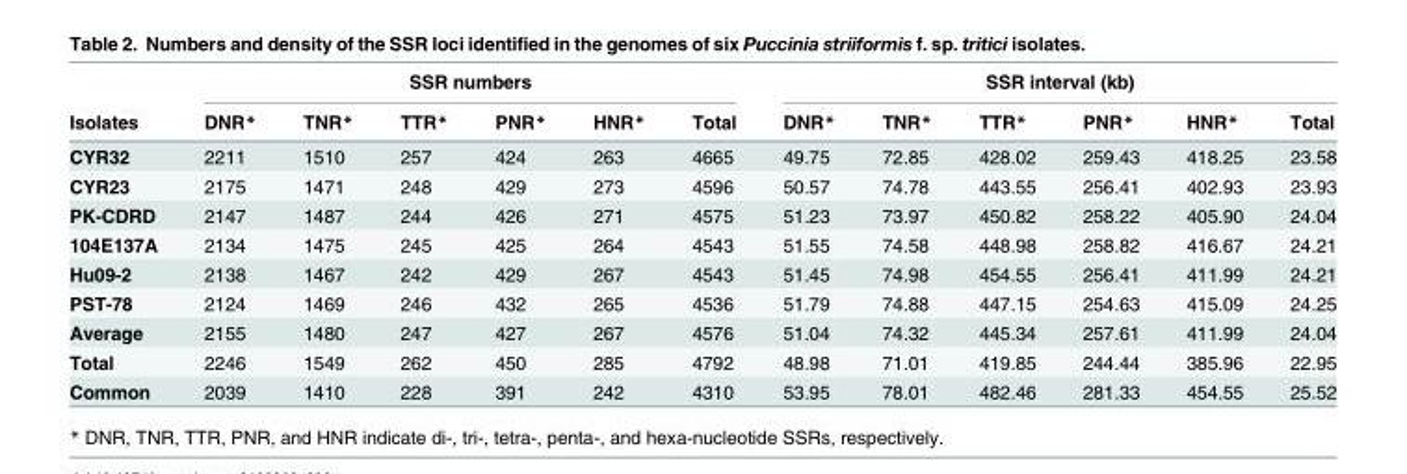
<table><thead><tr><td rowspan="2">Isolates</td><td colspan="6">SSR numbers</td><td colspan="6">SSR interval (kb)</td></tr><tr><td>DNR*</td><td>TNR*</td><td>TTR*</td><td>PNR*</td><td>HNR*</td><td>Total</td><td>DNR*</td><td>TNR*</td><td>TTR*</td><td>PNR*</td><td>HNR*</td><td>Total</td></tr></thead><tbody><tr><td>CYR32</td><td>2211</td><td>1510</td><td>257</td><td>424</td><td>263</td><td>4665</td><td>49.75</td><td>72.85</td><td>428.02</td><td>259.43</td><td>418.25</td><td>23.58</td></tr><tr><td>CYR23</td><td>2175</td><td>1471</td><td>248</td><td>429</td><td>273</td><td>4596</td><td>50.57</td><td>74.78</td><td>443.55</td><td>256.41</td><td>402.93</td><td>23.93</td></tr><tr><td>PK-CDRD</td><td>2147</td><td>1487</td><td>244</td><td>426</td><td>271</td><td>4575</td><td>51.23</td><td>73.97</td><td>450.82</td><td>258.22</td><td>405.90</td><td>24.04</td></tr><tr><td>104E137A</td><td>2134</td><td>1475</td><td>245</td><td>425</td><td>264</td><td>4543</td><td>51.55</td><td>74.58</td><td>448.98</td><td>258.82</td><td>416.67</td><td>24.21</td></tr><tr><td>Hu09-2</td><td>2138</td><td>1467</td><td>242</td><td>429</td><td>267</td><td>4543</td><td>51.45</td><td>74.98</td><td>454.55</td><td>256.41</td><td>411.99</td><td>24.21</td></tr><tr><td>PST-78</td><td>2124</td><td>1469</td><td>246</td><td>432</td><td>265</td><td>4536</td><td>51.79</td><td>74.88</td><td>447.15</td><td>254.63</td><td>415.09</td><td>24.25</td></tr><tr><td>Average</td><td>2155</td><td>1480</td><td>247</td><td>427</td><td>267</td><td>4576</td><td>51.04</td><td>74.32</td><td>445.34</td><td>257.61</td><td>411.99</td><td>24.04</td></tr><tr><td>Total</td><td>2246</td><td>1549</td><td>262</td><td>450</td><td>285</td><td>4792</td><td>48.98</td><td>71.01</td><td>419.85</td><td>244.44</td><td>385.96</td><td>22.95</td></tr><tr><td>Common</td><td>2039</td><td>1410</td><td>228</td><td>391</td><td>242</td><td>4310</td><td>53.95</td><td>78.01</td><td>482.46</td><td>281.33</td><td>454.55</td><td>25.52</td></tr></tbody></table>